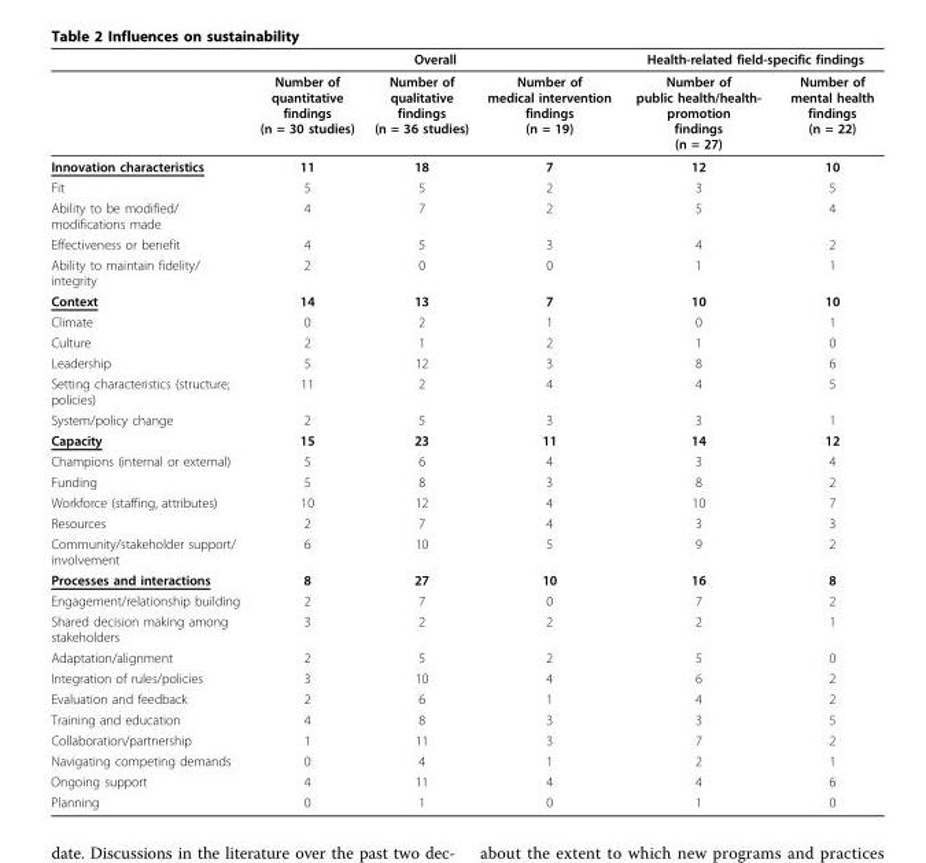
<table><thead><tr><td rowspan="2"></td><td colspan="3">Overall</td><td colspan="2">Health-related field-specific findings</td></tr><tr><td>Number of quantitative findings (n = 30 studies)</td><td>Number of qualitative findings (n = 36 studies)</td><td>Number of medical intervention findings (n = 19)</td><td>Number of public health/health- promotion findings (n = 27)</td><td>Number of mental health findings (n = 22)</td></tr></thead><tbody><tr><td>Innovation characteristics</td><td>11</td><td>18</td><td>7</td><td>12</td><td>10</td></tr><tr><td>Fit</td><td>5</td><td>5</td><td>2</td><td>3</td><td>5</td></tr><tr><td>Ability to be modified/ modifications made</td><td>4</td><td>7</td><td>2</td><td>5</td><td>4</td></tr><tr><td>Effectiveness or benefit</td><td>4</td><td>5</td><td>3</td><td>4</td><td>2</td></tr><tr><td>Ability to maintain fidelity/ integrity</td><td>2</td><td>0</td><td>0</td><td>1</td><td>1</td></tr><tr><td>Context</td><td>14</td><td>13</td><td>7</td><td>10</td><td>10</td></tr><tr><td>Climate</td><td>0</td><td>2</td><td>1</td><td>0</td><td>1</td></tr><tr><td>Culture</td><td>2</td><td>1</td><td>2</td><td>1</td><td>0</td></tr><tr><td>Leadership</td><td>5</td><td>12</td><td>3</td><td>8</td><td>6</td></tr><tr><td>Setting characteristics (structure; policies)</td><td>11</td><td>2</td><td>4</td><td>4</td><td>5</td></tr><tr><td>System/policy change</td><td>2</td><td>5</td><td>3</td><td>3</td><td>1</td></tr><tr><td>Capacity</td><td>15</td><td>23</td><td>11</td><td>14</td><td>12</td></tr><tr><td>Champions (internal or external)</td><td>5</td><td>6</td><td>4</td><td>3</td><td>4</td></tr><tr><td>Funding</td><td>5</td><td>8</td><td>3</td><td>8</td><td>2</td></tr><tr><td>Workforce (staffing, attributes)</td><td>10</td><td>12</td><td>4</td><td>10</td><td>7</td></tr><tr><td>Resources</td><td>2</td><td>7</td><td>4</td><td>3</td><td>3</td></tr><tr><td>Community/stakeholder support/ involvement</td><td>6</td><td>10</td><td>5</td><td>9</td><td>2</td></tr><tr><td>Processes and interactions</td><td>8</td><td>27</td><td>10</td><td>16</td><td>8</td></tr><tr><td>Engagement/relationship building</td><td>2</td><td>7</td><td>0</td><td>7</td><td>2</td></tr><tr><td>Shared decision making among stakeholders</td><td>3</td><td>2</td><td>2</td><td>2</td><td>1</td></tr><tr><td>Adaptation/alignment</td><td>2</td><td>5</td><td>2</td><td>5</td><td>0</td></tr><tr><td>Integration of rules/policies</td><td>3</td><td>10</td><td>4</td><td>6</td><td>2</td></tr><tr><td>Evaluation and feedback</td><td>2</td><td>6</td><td>1</td><td>4</td><td>2</td></tr><tr><td>Training and education</td><td>4</td><td>8</td><td>3</td><td>3</td><td>5</td></tr><tr><td>Collaboration/partnership</td><td>1</td><td>11</td><td>3</td><td>7</td><td>2</td></tr><tr><td>Navigating competing demands</td><td>0</td><td>4</td><td>1</td><td>2</td><td>1</td></tr><tr><td>Ongoing support</td><td>4</td><td>11</td><td>4</td><td>4</td><td>6</td></tr><tr><td>Planning</td><td>0</td><td>1</td><td>0</td><td>1</td><td>0</td></tr></tbody></table>